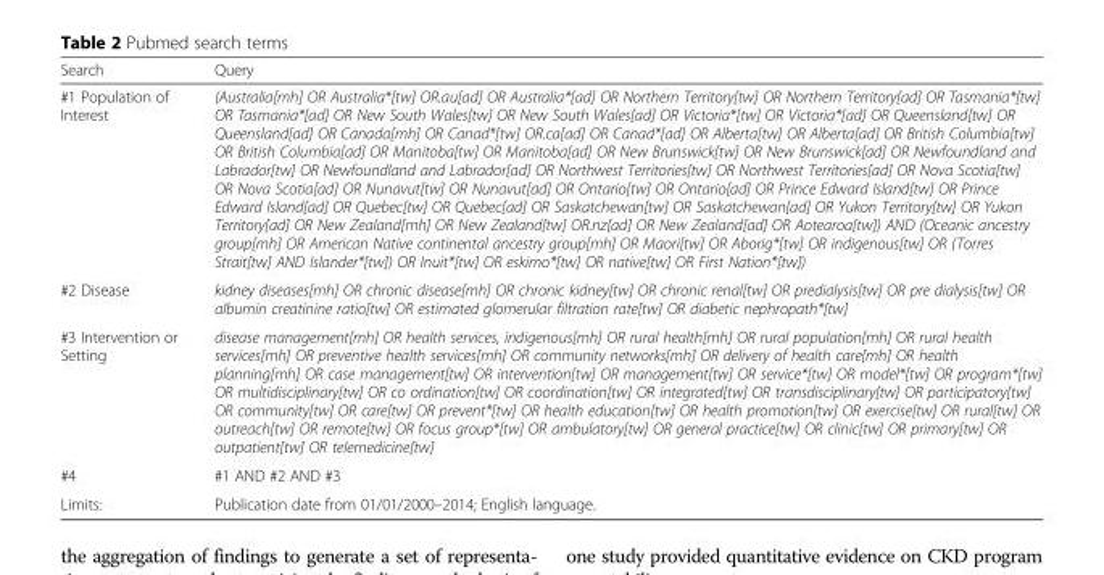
<table><thead><tr><td>Search</td><td>Query</td></tr></thead><tbody><tr><td>#1 Population of Interest</td><td>(Australia[mh] OR Australia*[tw] OR.au[ad] OR Australia*[ad] OR Northern Territory[tw] OR Northern Territory[ad] OR Tasmania*[tw] OR Tasmania*[ad] OR New South Wales[tw] OR New South Wales[ad] OR Victoria*[tw] OR Victoria*[ad] OR Queensland[tw] OR Queensland[ad] OR Canada[mh] OR Canad*[tw] OR.ca[ad] OR Canad*[ad] OR Alberta[tw] OR Alberta[ad] OR British Columbia[tw] OR British Columbia[ad] OR Manitoba[tw] OR Manitoba[ad] OR New Brunswick[tw] OR New Brunswick[ad] OR Newfoundland and Labrador[tw] OR Newfoundland and Labrador[ad] OR Northwest Territories[tw] OR Northwest Territories[ad] OR Nova Scotia[tw] OR Nova Scotia[ad] OR Nunavut[tw] OR Nunavut[ad] OR Ontario[tw] OR Ontario[ad] OR Prince Edward Island[tw] OR Prince Edward Island[ad] OR Quebec[tw] OR Quebec[ad] OR Saskatchewan[tw] OR Saskatchewan[ad] OR Yukon Territory[tw] OR Yukon Territory[ad] OR New Zealand[mh] OR New Zealand[tw] OR.nz[ad] OR New Zealand[ad] OR Aotearoa[tw]) AND (Oceanic ancestry group[mh] OR American Native continental ancestry group[mh] OR Maori[tw] OR Aborig*[tw] OR indigenous[tw] OR (Torres Strait[tw] AND Islander*[tw]) OR Inuit*[tw] OR eskimo*[tw] OR native[tw] OR First Nation*[tw])</td></tr><tr><td>#2 Disease</td><td>kidney diseases[mh] OR chronic disease[mh] OR chronic kidney[tw] OR chronic renal[tw] OR predialysis[tw] OR pre dialysis[tw] OR albumin creatinine ratio[tw] OR estimated glomerular filtration rate[tw] OR diabetic nephropath*[tw]</td></tr><tr><td>#3 Intervention or Setting</td><td>disease management[mh] OR health services, indigenous[mh] OR rural health[mh] OR rural population[mh] OR rural health services[mh] OR preventive health services[mh] OR community networks[mh] OR delivery of health care[mh] OR health planning[mh] OR case management[tw] OR intervention[tw] OR management[tw] OR service*[tw] OR model*[tw] OR program*[tw] OR multidisciplinary[tw] OR co ordination[tw] OR coordination[tw] OR integrated[tw] OR transdisciplinary[tw] OR participatory[tw] OR community[tw] OR care[tw] OR prevent*[tw] OR health education[tw] OR health promotion[tw] OR exercise[tw] OR rural[tw] OR outreach[tw] OR remote[tw] OR focus group*[tw] OR ambulatory[tw] OR general practice[tw] OR clinic[tw] OR primary[tw] OR outpatient[tw] OR telemedicine[tw]</td></tr><tr><td>#4</td><td>#1 AND #2 AND #3</td></tr><tr><td>Limits:</td><td>Publication date from 01/01/2000–2014; English language.</td></tr></tbody></table>